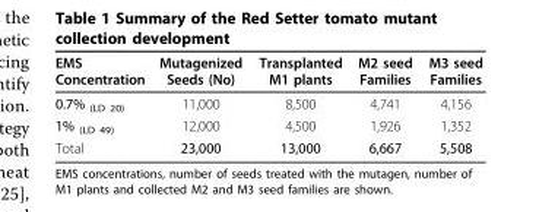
<table><thead><tr><td>EMS Concentration</td><td>Mutagenized Seeds (No)</td><td>Transplanted M1 plants</td><td>M2 seed Families</td><td>M3 seed Families</td></tr></thead><tbody><tr><td>0.7% <sub>(LD 20)</sub></td><td>11,000</td><td>8,500</td><td>4,741</td><td>4,156</td></tr><tr><td>1% <sub>(LD 49)</sub></td><td>12,000</td><td>4,500</td><td>1,926</td><td>1,352</td></tr><tr><td>Total</td><td>23,000</td><td>13,000</td><td>6,667</td><td>5,508</td></tr></tbody></table>